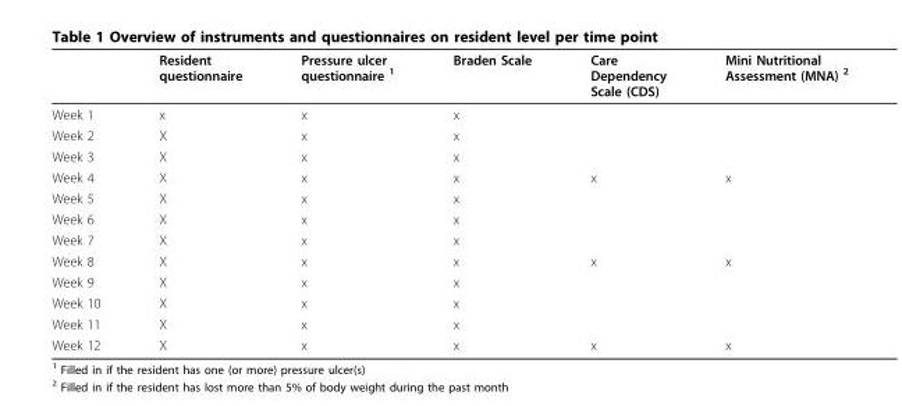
<table><thead><tr><td></td><td>Resident questionnaire</td><td>Pressure ulcer questionnaire <sup>1</sup></td><td>Braden Scale</td><td>Care Dependency Scale (CDS)</td><td>Mini Nutritional Assessment (MNA) <sup>2</sup></td></tr></thead><tbody><tr><td>Week 1</td><td>x</td><td>x</td><td>x</td><td></td><td></td></tr><tr><td>Week 2</td><td>X</td><td>x</td><td>x</td><td></td><td></td></tr><tr><td>Week 3</td><td>X</td><td>x</td><td>x</td><td></td><td></td></tr><tr><td>Week 4</td><td>X</td><td>x</td><td>x</td><td>x</td><td>x</td></tr><tr><td>Week 5</td><td>X</td><td>x</td><td>x</td><td></td><td></td></tr><tr><td>Week 6</td><td>X</td><td>x</td><td>x</td><td></td><td></td></tr><tr><td>Week 7</td><td>X</td><td>x</td><td>x</td><td></td><td></td></tr><tr><td>Week 8</td><td>X</td><td>x</td><td>x</td><td>x</td><td>x</td></tr><tr><td>Week 9</td><td>X</td><td>x</td><td>x</td><td></td><td></td></tr><tr><td>Week 10</td><td>X</td><td>x</td><td>x</td><td></td><td></td></tr><tr><td>Week 11</td><td>X</td><td>x</td><td>x</td><td></td><td></td></tr><tr><td>Week 12</td><td>X</td><td>x</td><td>x</td><td>x</td><td>x</td></tr></tbody></table>